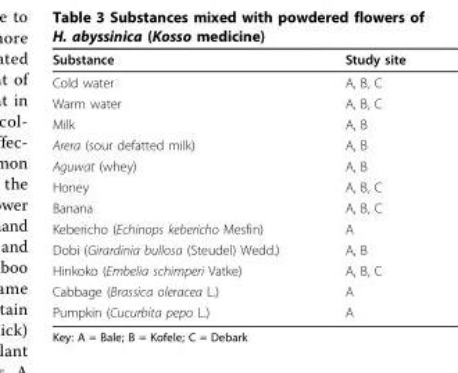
<table><thead><tr><td>Substance</td><td>Study site</td></tr></thead><tbody><tr><td>Cold water</td><td>A, B, C</td></tr><tr><td>Warm water</td><td>A, B, C</td></tr><tr><td>Milk</td><td>A, B</td></tr><tr><td>Arera (sour defatted milk)</td><td>A, B</td></tr><tr><td>Aguwat (whey)</td><td>A, B</td></tr><tr><td>Honey</td><td>A, B, C</td></tr><tr><td>Banana</td><td>A, B, C</td></tr><tr><td>Kebericho (Echinops kebericho Mesfin)</td><td>A</td></tr><tr><td>Dobi (Girardinia bullosa (Steudel) Wedd.)</td><td>A, B</td></tr><tr><td>Hinkoko (Embelia schimperi Vatke)</td><td>A, B, C</td></tr><tr><td>Cabbage (Brassica oleracea L.)</td><td>A</td></tr><tr><td>Pumpkin (Cucurbita pepo L.)</td><td>A</td></tr></tbody></table>